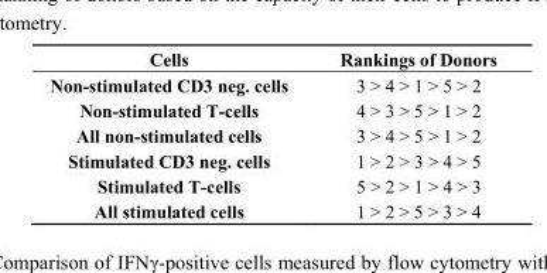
<table><thead><tr><td>Cells</td><td>Rankings of Donors</td></tr></thead><tbody><tr><td>Non-stimulated CD3 neg. cells</td><td>3 &gt; 4 &gt; 1 &gt; 5 &gt; 2</td></tr><tr><td>Non-stimulated T-cells</td><td>4 &gt; 3 &gt; 5 &gt; 1 &gt; 2</td></tr><tr><td>All non-stimulated cells</td><td>3 &gt; 4 &gt; 5 &gt; 1 &gt; 2</td></tr><tr><td>Stimulated CD3 neg. cells</td><td>1 &gt; 2 &gt; 3 &gt; 4 &gt; 5</td></tr><tr><td>Stimulated T-cells</td><td>5 &gt; 2 &gt; 1 &gt; 4 &gt; 3</td></tr><tr><td>All stimulated cells</td><td>1 &gt; 2 &gt; 5 &gt; 3 &gt; 4</td></tr></tbody></table>